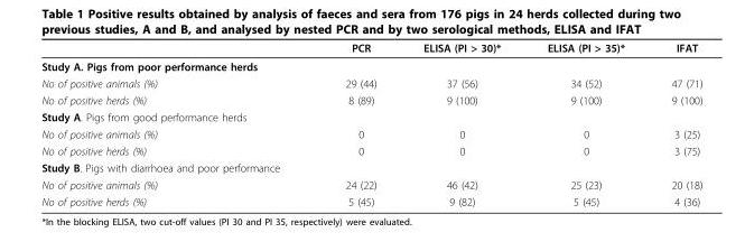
<table><thead><tr><td></td><td>PCR</td><td>ELISA (PI &gt; 30)*</td><td>ELISA (PI &gt; 35)*</td><td>IFAT</td></tr></thead><tbody><tr><td colspan="5">Study A. Pigs from poor performance herds</td></tr><tr><td>No of positive animals (%)</td><td>29 (44)</td><td>37 (56)</td><td>34 (52)</td><td>47 (71)</td></tr><tr><td>No of positive herds (%)</td><td>8 (89)</td><td>9 (100)</td><td>9 (100)</td><td>9 (100)</td></tr><tr><td colspan="5">Study A. Pigs from good performance herds</td></tr><tr><td>No of positive animals (%)</td><td>0</td><td>0</td><td>0</td><td>3 (25)</td></tr><tr><td>No of positive herds (%)</td><td>0</td><td>0</td><td>0</td><td>3 (75)</td></tr><tr><td colspan="5">Study B. Pigs with diarrhoea and poor performance</td></tr><tr><td>No of positive animals (%)</td><td>24 (22)</td><td>46 (42)</td><td>25 (23)</td><td>20 (18)</td></tr><tr><td>No of positive herds (%)</td><td>5 (45)</td><td>9 (82)</td><td>5 (45)</td><td>4 (36)</td></tr></tbody></table>